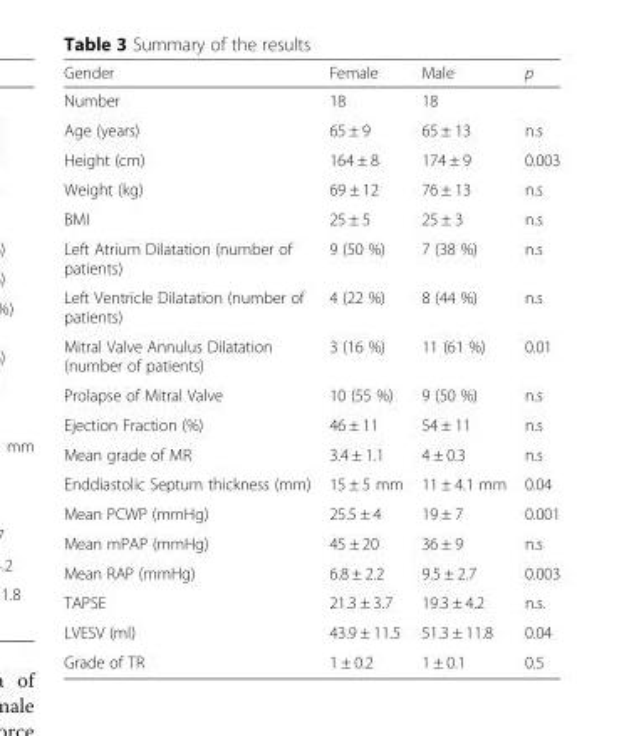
<table><thead><tr><td>Gender</td><td>Female</td><td>Male</td><td>p</td></tr></thead><tbody><tr><td>Number</td><td>18</td><td>18</td><td></td></tr><tr><td>Age (years)</td><td>65 ± 9</td><td>65 ± 13</td><td>n.s</td></tr><tr><td>Height (cm)</td><td>164 ± 8</td><td>174 ± 9</td><td>0.003</td></tr><tr><td>Weight (kg)</td><td>69 ± 12</td><td>76 ± 13</td><td>n.s</td></tr><tr><td>BMI</td><td>25 ± 5</td><td>25 ± 3</td><td>n.s</td></tr><tr><td>Left Atrium Dilatation (number of patients)</td><td>9 (50 %)</td><td>7 (38 %)</td><td>n.s</td></tr><tr><td>Left Ventricle Dilatation (number of patients)</td><td>4 (22 %)</td><td>8 (44 %)</td><td>n.s</td></tr><tr><td>Mitral Valve Annulus Dilatation (number of patients)</td><td>3 (16 %)</td><td>11 (61 %)</td><td>0.01</td></tr><tr><td>Prolapse of Mitral Valve</td><td>10 (55 %)</td><td>9 (50 %)</td><td>n.s</td></tr><tr><td>Ejection Fraction (%)</td><td>46 ± 11</td><td>54 ± 11</td><td>n.s</td></tr><tr><td>Mean grade of MR</td><td>3.4 ± 1.1</td><td>4 ± 0.3</td><td>n.s</td></tr><tr><td>Enddiastolic Septum thickness (mm)</td><td>15 ± 5 mm</td><td>11 ± 4.1 mm</td><td>0.04</td></tr><tr><td>Mean PCWP (mmHg)</td><td>25.5 ± 4</td><td>19 ± 7</td><td>0.001</td></tr><tr><td>Mean mPAP (mmHg)</td><td>45 ± 20</td><td>36 ± 9</td><td>n.s</td></tr><tr><td>Mean RAP (mmHg)</td><td>6.8 ± 2.2</td><td>9.5 ± 2.7</td><td>0.003</td></tr><tr><td>TAPSE</td><td>21.3 ± 3.7</td><td>19.3 ± 4.2</td><td>n.s.</td></tr><tr><td>LVESV (ml)</td><td>43.9 ± 11.5</td><td>51.3 ± 11.8</td><td>0.04</td></tr><tr><td>Grade of TR</td><td>1 ± 0.2</td><td>1 ± 0.1</td><td>0.5</td></tr></tbody></table>